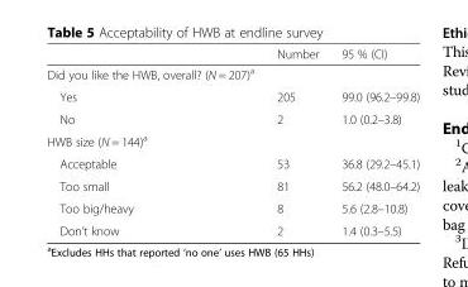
<table><thead><tr><td></td><td>Number</td><td>95 % (CI)</td></tr></thead><tbody><tr><td colspan="3">Did you like the HWB, overall? (N = 207)<sup>a</sup></td></tr><tr><td>Yes</td><td>205</td><td>99.0 (96.2–99.8)</td></tr><tr><td>No</td><td>2</td><td>1.0 (0.2–3.8)</td></tr><tr><td colspan="3">HWB size (N = 144)<sup>a</sup></td></tr><tr><td>Acceptable</td><td>53</td><td>36.8 (29.2–45.1)</td></tr><tr><td>Too small</td><td>81</td><td>56.2 (48.0–64.2)</td></tr><tr><td>Too big/heavy</td><td>8</td><td>5.6 (2.8–10.8)</td></tr><tr><td>Don’t know</td><td>2</td><td>1.4 (0.3–5.5)</td></tr></tbody></table>